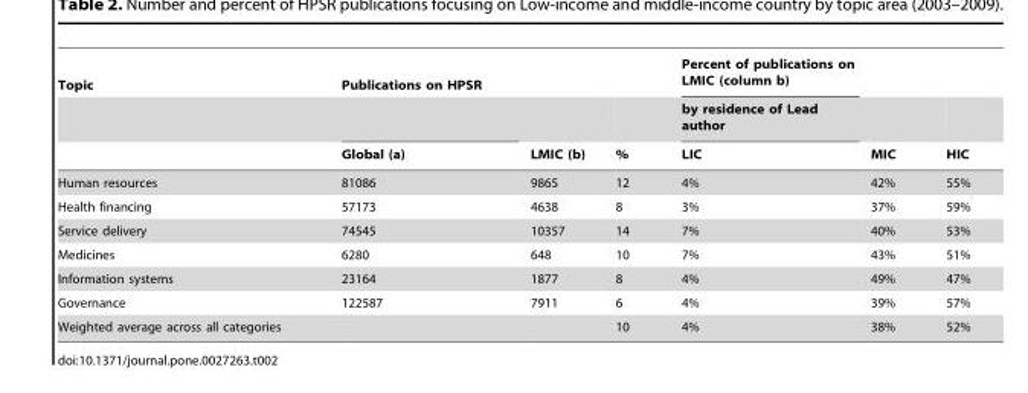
<table><thead><tr><td rowspan="3">Topic</td><td rowspan="3">Publications on HPSR Global (a)</td><td rowspan="3">LMIC (b)</td><td rowspan="3">%</td><td rowspan="3">Percent of publications on LMIC (column b) by residence of Lead author LIC</td><td rowspan="3">MIC</td><td rowspan="3">HIC</td></tr><tr></tr><tr></tr></thead><tbody><tr><td>Human resources</td><td>81086</td><td>9865</td><td>12</td><td>4%</td><td>42%</td><td>55%</td></tr><tr><td>Health financing</td><td>57173</td><td>4638</td><td>8</td><td>3%</td><td>37%</td><td>59%</td></tr><tr><td>Service delivery</td><td>74545</td><td>10357</td><td>14</td><td>7%</td><td>40%</td><td>53%</td></tr><tr><td>Medicines</td><td>6280</td><td>648</td><td>10</td><td>7%</td><td>43%</td><td>51%</td></tr><tr><td>Information systems</td><td>23164</td><td>1877</td><td>8</td><td>4%</td><td>49%</td><td>47%</td></tr><tr><td>Governance</td><td>122587</td><td>7911</td><td>6</td><td>4%</td><td>39%</td><td>57%</td></tr><tr><td>Weighted average across all categories</td><td></td><td></td><td>10</td><td>4%</td><td>38%</td><td>52%</td></tr></tbody></table>